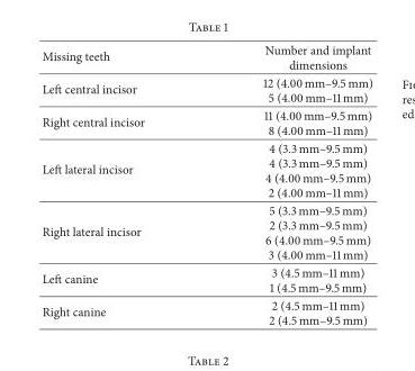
<table><thead><tr><td>Missing teeth</td><td>Number and implant dimensions</td></tr></thead><tbody><tr><td>Left central incisor</td><td>12 (4.00 mm–9.5 mm) 5 (4.00 mm–11 mm)</td></tr><tr><td>Right central incisor</td><td>11 (4.00 mm–9.5 mm) 8 (4.00 mm–11 mm)</td></tr><tr><td>Left lateral incisor</td><td>4 (3.3 mm–9.5 mm) 4 (3.3 mm–9.5 mm) 4 (4.00 mm–9.5 mm) 2 (4.00 mm–11 mm)</td></tr><tr><td>Right lateral incisor</td><td>5 (3.3 mm–9.5 mm) 2 (3.3 mm–9.5 mm) 6 (4.00 mm–9.5 mm) 3 (4.00 mm–11 mm)</td></tr><tr><td>Left canine</td><td>3 (4.5 mm–11 mm) 1 (4.5 mm–9.5 mm)</td></tr><tr><td>Right canine</td><td>2 (4.5 mm–11 mm) 2 (4.5 mm–9.5 mm)</td></tr></tbody></table>